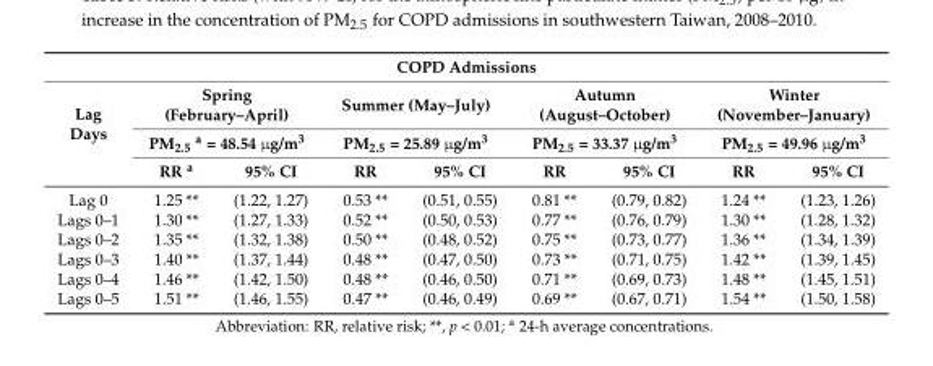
<table><thead><tr><td colspan="9">COPD Admissions</td></tr><tr><td rowspan="3">Lag Days</td><td rowspan="2" colspan="2">Spring (February–April) PM<sub>2.5</sub> <sup>a</sup> = 48.54 µg/m<sup>3</sup></td><td rowspan="2" colspan="2">Summer (May–July) PM<sub>2.5</sub> = 25.89 µg/m<sup>3</sup></td><td rowspan="2" colspan="2">Autumn (August–October) PM<sub>2.5</sub> = 33.37 µg/m<sup>3</sup></td><td rowspan="2" colspan="2">Winter (November–January) PM<sub>2.5</sub> = 49.96 µg/m<sup>3</sup></td></tr><tr></tr><tr><td>RR <sup>a</sup></td><td>95% CI</td><td>RR</td><td>95% CI</td><td>RR</td><td>95% CI</td><td>RR</td><td>95% CI</td></tr></thead><tbody><tr><td>Lag 0</td><td>1.25 **</td><td>(1.22, 1.27)</td><td>0.53 **</td><td>(0.51, 0.55)</td><td>0.81 **</td><td>(0.79, 0.82)</td><td>1.24 **</td><td>(1.23, 1.26)</td></tr><tr><td>Lags 0–1</td><td>1.30 **</td><td>(1.27, 1.33)</td><td>0.52 **</td><td>(0.50, 0.53)</td><td>0.77 **</td><td>(0.76, 0.79)</td><td>1.30 **</td><td>(1.28, 1.32)</td></tr><tr><td>Lags 0–2</td><td>1.35 **</td><td>(1.32, 1.38)</td><td>0.50 **</td><td>(0.48, 0.52)</td><td>0.75 **</td><td>(0.73, 0.77)</td><td>1.36 **</td><td>(1.34, 1.39)</td></tr><tr><td>Lags 0–3</td><td>1.40 **</td><td>(1.37, 1.44)</td><td>0.48 **</td><td>(0.47, 0.50)</td><td>0.73 **</td><td>(0.71, 0.75)</td><td>1.42 **</td><td>(1.39, 1.45)</td></tr><tr><td>Lags 0–4</td><td>1.46 **</td><td>(1.42, 1.50)</td><td>0.48 **</td><td>(0.46, 0.50)</td><td>0.71 **</td><td>(0.69, 0.73)</td><td>1.48 **</td><td>(1.45, 1.51)</td></tr><tr><td>Lags 0–5</td><td>1.51 **</td><td>(1.46, 1.55)</td><td>0.47 **</td><td>(0.46, 0.49)</td><td>0.69 **</td><td>(0.67, 0.71)</td><td>1.54 **</td><td>(1.50, 1.58)</td></tr></tbody></table>